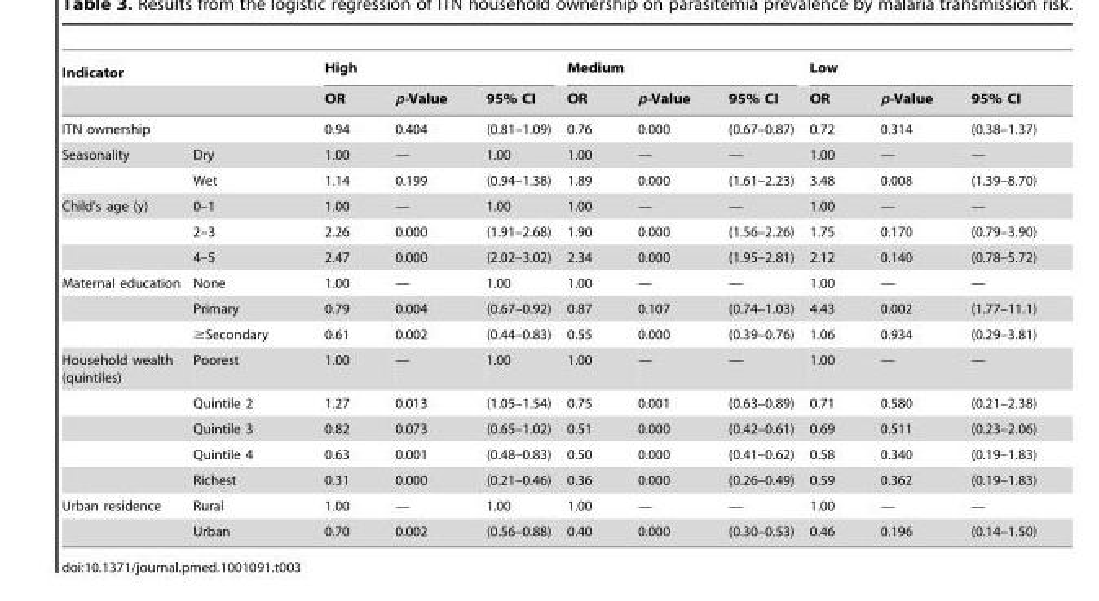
<table><thead><tr><td colspan="2">Indicator</td><td colspan="3">High</td><td colspan="3">Medium</td><td colspan="3">Low</td></tr><tr><td></td><td></td><td>OR</td><td>p-Value</td><td>95% CI</td><td>OR</td><td>p-Value</td><td>95% CI</td><td>OR</td><td>p-Value</td><td>95% CI</td></tr></thead><tbody><tr><td>ITN ownership</td><td></td><td>0.94</td><td>0.404</td><td>(0.81–1.09)</td><td>0.76</td><td>0.000</td><td>(0.67–0.87)</td><td>0.72</td><td>0.314</td><td>(0.38–1.37)</td></tr><tr><td rowspan="2">Seasonality</td><td>Dry</td><td>1.00</td><td>—</td><td>1.00</td><td>1.00</td><td>—</td><td>—</td><td>1.00</td><td>—</td><td>—</td></tr><tr><td>Wet</td><td>1.14</td><td>0.199</td><td>(0.94–1.38)</td><td>1.89</td><td>0.000</td><td>(1.61–2.23)</td><td>3.48</td><td>0.008</td><td>(1.39–8.70)</td></tr><tr><td rowspan="3">Child’s age (y)</td><td>0–1</td><td>1.00</td><td>—</td><td>1.00</td><td>1.00</td><td>—</td><td>—</td><td>1.00</td><td>—</td><td>—</td></tr><tr><td>2–3</td><td>2.26</td><td>0.000</td><td>(1.91–2.68)</td><td>1.90</td><td>0.000</td><td>(1.56–2.26)</td><td>1.75</td><td>0.170</td><td>(0.79–3.90)</td></tr><tr><td>4–5</td><td>2.47</td><td>0.000</td><td>(2.02–3.02)</td><td>2.34</td><td>0.000</td><td>(1.95–2.81)</td><td>2.12</td><td>0.140</td><td>(0.78–5.72)</td></tr><tr><td rowspan="3">Maternal education</td><td>None</td><td>1.00</td><td>—</td><td>1.00</td><td>1.00</td><td>—</td><td>—</td><td>1.00</td><td>—</td><td>—</td></tr><tr><td>Primary</td><td>0.79</td><td>0.004</td><td>(0.67–0.92)</td><td>0.87</td><td>0.107</td><td>(0.74–1.03)</td><td>4.43</td><td>0.002</td><td>(1.77–11.1)</td></tr><tr><td>≥Secondary</td><td>0.61</td><td>0.002</td><td>(0.44–0.83)</td><td>0.55</td><td>0.000</td><td>(0.39–0.76)</td><td>1.06</td><td>0.934</td><td>(0.29–3.81)</td></tr><tr><td rowspan="5">Household wealth (quintiles)</td><td>Poorest</td><td>1.00</td><td>—</td><td>1.00</td><td>1.00</td><td>—</td><td>—</td><td>1.00</td><td>—</td><td>—</td></tr><tr><td>Quintile 2</td><td>1.27</td><td>0.013</td><td>(1.05–1.54)</td><td>0.75</td><td>0.001</td><td>(0.63–0.89)</td><td>0.71</td><td>0.580</td><td>(0.21–2.38)</td></tr><tr><td>Quintile 3</td><td>0.82</td><td>0.073</td><td>(0.65–1.02)</td><td>0.51</td><td>0.000</td><td>(0.42–0.61)</td><td>0.69</td><td>0.511</td><td>(0.23–2.06)</td></tr><tr><td>Quintile 4</td><td>0.63</td><td>0.001</td><td>(0.48–0.83)</td><td>0.50</td><td>0.000</td><td>(0.41–0.62)</td><td>0.58</td><td>0.340</td><td>(0.19–1.83)</td></tr><tr><td>Richest</td><td>0.31</td><td>0.000</td><td>(0.21–0.46)</td><td>0.36</td><td>0.000</td><td>(0.26–0.49)</td><td>0.59</td><td>0.362</td><td>(0.19–1.83)</td></tr><tr><td rowspan="2">Urban residence</td><td>Rural</td><td>1.00</td><td>—</td><td>1.00</td><td>1.00</td><td>—</td><td>—</td><td>1.00</td><td>—</td><td>—</td></tr><tr><td>Urban</td><td>0.70</td><td>0.002</td><td>(0.56–0.88)</td><td>0.40</td><td>0.000</td><td>(0.30–0.53)</td><td>0.46</td><td>0.196</td><td>(0.14–1.50)</td></tr></tbody></table>